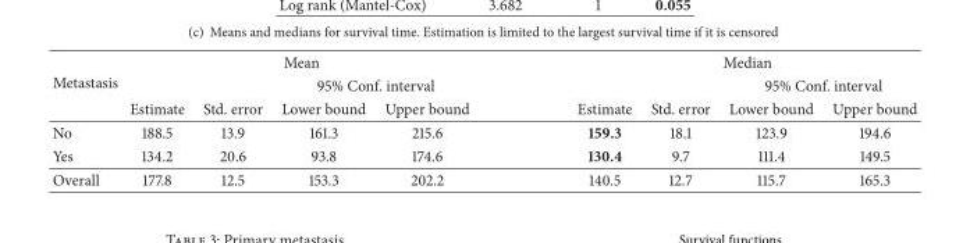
<table><thead><tr><td rowspan="3">Metastasis</td><td colspan="4">Mean</td><td colspan="4">Median</td></tr><tr><td rowspan="2">Estimate</td><td rowspan="2">Std. error</td><td colspan="2">95% Conf. interval</td><td rowspan="2">Estimate</td><td rowspan="2">Std. error</td><td colspan="2">95% Conf. interval</td></tr><tr><td>Lower bound</td><td>Upper bound</td><td>Lower bound</td><td>Upper bound</td></tr></thead><tbody><tr><td>No</td><td>188.5</td><td>13.9</td><td>161.3</td><td>215.6</td><td>159.3</td><td>18.1</td><td>123.9</td><td>194.6</td></tr><tr><td>Yes</td><td>134.2</td><td>20.6</td><td>93.8</td><td>174.6</td><td>130.4</td><td>9.7</td><td>111.4</td><td>149.5</td></tr><tr><td>Overall</td><td>177.8</td><td>12.5</td><td>153.3</td><td>202.2</td><td>140.5</td><td>12.7</td><td>115.7</td><td>165.3</td></tr></tbody></table>